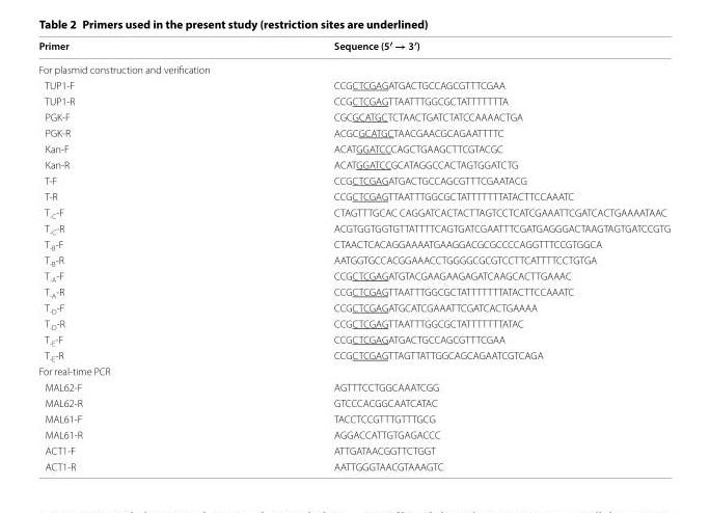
<table><thead><tr><td>Primer</td><td>Sequence (5′ → 3′)</td></tr></thead><tbody><tr><td colspan="2">For plasmid construction and verification</td></tr><tr><td>TUP1‑F</td><td>CCGCTCGAGATGACTGCCAGCGTTTCGAA</td></tr><tr><td>TUP1‑R</td><td>CCGCTCGAGTTAATTTGGCGCTATTTTTTTA</td></tr><tr><td>PGK‑F</td><td>CGCGCATGCTCTAACTGATCTATCCAAAACTGA</td></tr><tr><td>PGK‑R</td><td>ACGCGCATGCTAACGAACGCAGAATTTTC</td></tr><tr><td>Kan‑F</td><td>ACATGGATCCCAGCTGAAGCTTCGTACGC</td></tr><tr><td>Kan‑R</td><td>ACATGGATCCGCATAGGCCACTAGTGGATCTG</td></tr><tr><td>T‑F</td><td>CCGCTCGAGATGACTGCCAGCGTTTCGAATACG</td></tr><tr><td>T‑R</td><td>CCGCTCGAGTTAATTTGGCGCTATTTTTTTATACTTCCAAATC</td></tr><tr><td>T<sub>‑C</sub>‑F</td><td>CTAGTTTGCAC CAGGATCACTACTTAGTCCTCATCGAAATTCGATCACTGAAAATAAC</td></tr><tr><td>T<sub>‑C</sub>‑R</td><td>ACGTGGTGGTGTTATTTTCAGTGATCGAATTTCGATGAGGGACTAAGTAGTGATCCGTG</td></tr><tr><td>T<sub>‑B</sub>‑F</td><td>CTAACTCACAGGAAAATGAAGGACGCGCCCCAGGTTTCCGTGGCA</td></tr><tr><td>T<sub>‑B</sub>‑R</td><td>AATGGTGCCACGGAAACCTGGGGCGCGTCCTTCATTTTCCTGTGA</td></tr><tr><td>T<sub>‑A</sub>‑F</td><td>CCGCTCGAGATGTACGAAGAAGAGATCAAGCACTTGAAAC</td></tr><tr><td>T<sub>‑A</sub>‑R</td><td>CCGCTCGAGTTAATTTGGCGCTATTTTTTTATACTTCCAAATC</td></tr><tr><td>T<sub>‑D</sub>‑F</td><td>CCGCTCGAGATGCATCGAAATTCGATCACTGAAAA</td></tr><tr><td>T<sub>‑D</sub>‑R</td><td>CCGCTCGAGTTAATTTGGCGCTATTTTTTTATAC</td></tr><tr><td>T<sub>‑E</sub>‑F</td><td>CCGCTCGAGATGACTGCCAGCGTTTCGAA</td></tr><tr><td>T<sub>‑E</sub>‑R</td><td>CCGCTCGAGTTAGTTATTGGCAGCAGAATCGTCAGA</td></tr><tr><td colspan="2">For real‑time PCR</td></tr><tr><td>MAL62‑F</td><td>AGTTTCCTGGCAAATCGG</td></tr><tr><td>MAL62‑R</td><td>GTCCCACGGCAATCATAC</td></tr><tr><td>MAL61‑F</td><td>TACCTCCGTTTGTTTGCG</td></tr><tr><td>MAL61‑R</td><td>AGGACCATTGTGAGACCC</td></tr><tr><td>ACT1‑F</td><td>ATTGATAACGGTTCTGGT</td></tr><tr><td>ACT1‑R</td><td>AATTGGGTAACGTAAAGTC</td></tr></tbody></table>